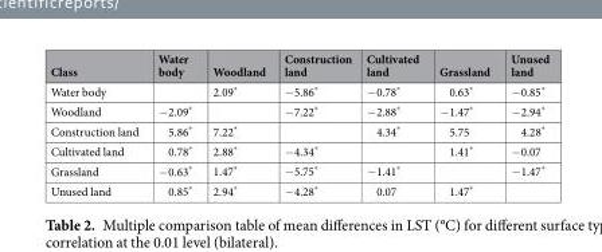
<table><thead><tr><td>Class</td><td>Water body</td><td>Woodland</td><td>Construction land</td><td>Cultivated land</td><td>Grassland</td><td>Unused land</td></tr></thead><tbody><tr><td>Water body</td><td></td><td>2.09*</td><td>−5.86*</td><td>−0.78*</td><td>0.63*</td><td>−0.85*</td></tr><tr><td>Woodland</td><td>−2.09*</td><td></td><td>−7.22*</td><td>−2.88*</td><td>−1.47*</td><td>−2.94*</td></tr><tr><td>Construction land</td><td>5.86*</td><td>7.22*</td><td></td><td>4.34*</td><td>5.75</td><td>4.28*</td></tr><tr><td>Cultivated land</td><td>0.78*</td><td>2.88*</td><td>−4.34*</td><td></td><td>1.41*</td><td>−0.07</td></tr><tr><td>Grassland</td><td>−0.63*</td><td>1.47*</td><td>−5.75*</td><td>−1.41*</td><td></td><td>−1.47*</td></tr><tr><td>Unused land</td><td>0.85*</td><td>2.94*</td><td>−4.28*</td><td>0.07</td><td>1.47*</td><td></td></tr></tbody></table>